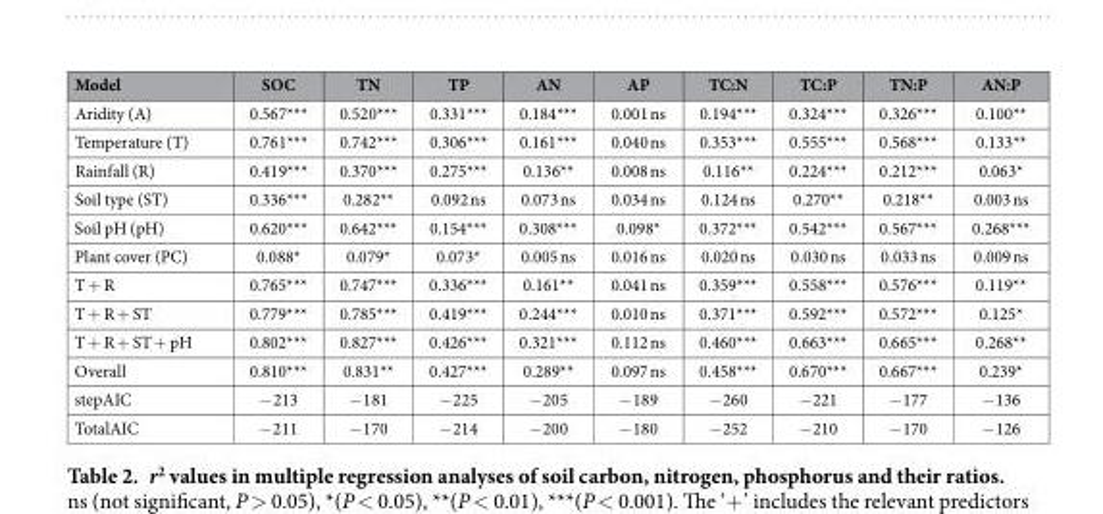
<table><thead><tr><td>Model</td><td>SOC</td><td>TN</td><td>TP</td><td>AN</td><td>AP</td><td>TC:N</td><td>TC:P</td><td>TN:P</td><td>AN:P</td></tr></thead><tbody><tr><td>Aridity (A)</td><td>0.567***</td><td>0.520***</td><td>0.331***</td><td>0.184***</td><td>0.001 ns</td><td>0.194***</td><td>0.324***</td><td>0.326***</td><td>0.100**</td></tr><tr><td>Temperature (T)</td><td>0.761***</td><td>0.742***</td><td>0.306***</td><td>0.161***</td><td>0.040 ns</td><td>0.353***</td><td>0.555***</td><td>0.568***</td><td>0.133**</td></tr><tr><td>Rainfall (R)</td><td>0.419***</td><td>0.370***</td><td>0.275***</td><td>0.136**</td><td>0.008 ns</td><td>0.116**</td><td>0.224***</td><td>0.212***</td><td>0.063*</td></tr><tr><td>Soil type (ST)</td><td>0.336***</td><td>0.282**</td><td>0.092 ns</td><td>0.073 ns</td><td>0.034 ns</td><td>0.124 ns</td><td>0.270**</td><td>0.218**</td><td>0.003 ns</td></tr><tr><td>Soil pH (pH)</td><td>0.620***</td><td>0.642***</td><td>0.154***</td><td>0.308***</td><td>0.098*</td><td>0.372***</td><td>0.542***</td><td>0.567***</td><td>0.268***</td></tr><tr><td>Plant cover (PC)</td><td>0.088*</td><td>0.079*</td><td>0.073*</td><td>0.005 ns</td><td>0.016 ns</td><td>0.020 ns</td><td>0.030 ns</td><td>0.033 ns</td><td>0.009 ns</td></tr><tr><td>T + R</td><td>0.765***</td><td>0.747***</td><td>0.336***</td><td>0.161**</td><td>0.041 ns</td><td>0.359***</td><td>0.558***</td><td>0.576***</td><td>0.119**</td></tr><tr><td>T + R + ST</td><td>0.779***</td><td>0.785***</td><td>0.419***</td><td>0.244***</td><td>0.010 ns</td><td>0.371***</td><td>0.592***</td><td>0.572***</td><td>0.125*</td></tr><tr><td>T + R + ST + pH</td><td>0.802***</td><td>0.827***</td><td>0.426***</td><td>0.321***</td><td>0.112 ns</td><td>0.460***</td><td>0.663***</td><td>0.665***</td><td>0.268**</td></tr><tr><td>Overall</td><td>0.810***</td><td>0.831**</td><td>0.427***</td><td>0.289**</td><td>0.097 ns</td><td>0.458***</td><td>0.670***</td><td>0.667***</td><td>0.239*</td></tr><tr><td>stepAIC</td><td>− 213</td><td>− 181</td><td>− 225</td><td>− 205</td><td>− 189</td><td>− 260</td><td>− 221</td><td>− 177</td><td>− 136</td></tr><tr><td>TotalAIC</td><td>− 211</td><td>− 170</td><td>− 214</td><td>− 200</td><td>− 180</td><td>− 252</td><td>− 210</td><td>− 170</td><td>− 126</td></tr></tbody></table>